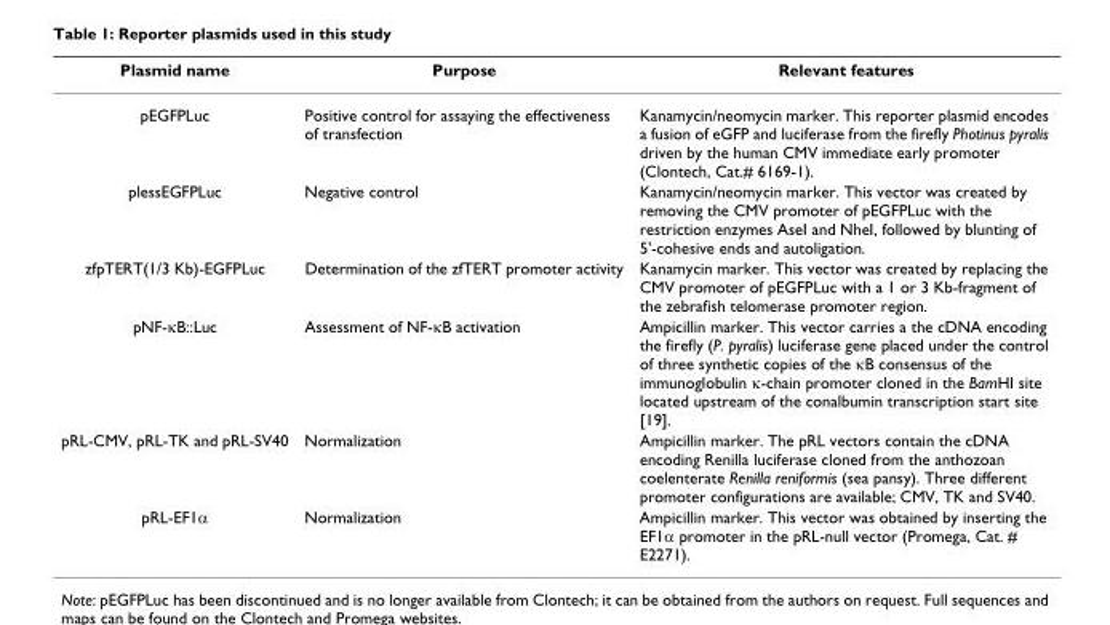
<table><thead><tr><td>Plasmid name</td><td>Purpose</td><td>Relevant features</td></tr></thead><tbody><tr><td>pEGFPLuc</td><td>Positive control for assaying the effectiveness of transfection</td><td>Kanamycin/neomycin marker. This reporter plasmid encodes a fusion of eGFP and luciferase from the firefly Photinus pyralis driven by the human CMV immediate early promoter (Clontech, Cat.# 6169-1).</td></tr><tr><td>plessEGFPLuc</td><td>Negative control</td><td>Kanamycin/neomycin marker. This vector was created by removing the CMV promoter of pEGFPLuc with the restriction enzymes AseI and NheI, followed by blunting of 5&#x27;-cohesive ends and autoligation.</td></tr><tr><td>zfpTERT(1/3 Kb)-EGFPLuc</td><td>Determination of the zfTERT promoter activity</td><td>Kanamycin marker. This vector was created by replacing the CMV promoter of pEGFPLuc with a 1 or 3 Kb-fragment of the zebrafish telomerase promoter region.</td></tr><tr><td>pNF-κB::Luc</td><td>Assessment of NF-κB activation</td><td>Ampicillin marker. This vector carries a the cDNA encoding the firefly (P. pyralis) luciferase gene placed under the control of three synthetic copies of the κB consensus of the immunoglobulin κ-chain promoter cloned in the BamHI site located upstream of the conalbumin transcription start site [19].</td></tr><tr><td>pRL-CMV, pRL-TK and pRL-SV40</td><td>Normalization</td><td>Ampicillin marker. The pRL vectors contain the cDNA encoding Renilla luciferase cloned from the anthozoan coelenterate Renilla reniformis (sea pansy). Three different promoter configurations are available; CMV, TK and SV40.</td></tr><tr><td>pRL-EF1α</td><td>Normalization</td><td>Ampicillin marker. This vector was obtained by inserting the EF1α promoter in the pRL-null vector (Promega, Cat. # E2271).</td></tr></tbody></table>